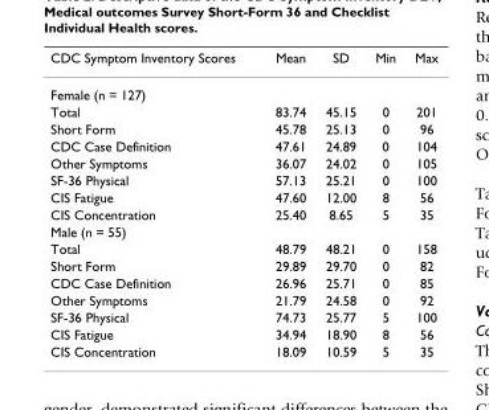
<table><thead><tr><td>CDC Symptom Inventory Scores</td><td>Mean</td><td>SD</td><td>Min</td><td>Max</td></tr></thead><tbody><tr><td colspan="5">Female (n = 127)</td></tr><tr><td>Total</td><td>83.74</td><td>45.15</td><td>0</td><td>201</td></tr><tr><td>Short Form</td><td>45.78</td><td>25.13</td><td>0</td><td>96</td></tr><tr><td>CDC Case Definition</td><td>47.61</td><td>24.89</td><td>0</td><td>104</td></tr><tr><td>Other Symptoms</td><td>36.07</td><td>24.02</td><td>0</td><td>105</td></tr><tr><td>SF-36 Physical</td><td>57.13</td><td>25.21</td><td>0</td><td>100</td></tr><tr><td>CIS Fatigue</td><td>47.60</td><td>12.00</td><td>8</td><td>56</td></tr><tr><td>CIS Concentration</td><td>25.40</td><td>8.65</td><td>5</td><td>35</td></tr><tr><td colspan="5">Male (n = 55)</td></tr><tr><td>Total</td><td>48.79</td><td>48.21</td><td>0</td><td>158</td></tr><tr><td>Short Form</td><td>29.89</td><td>29.70</td><td>0</td><td>82</td></tr><tr><td>CDC Case Definition</td><td>26.96</td><td>25.71</td><td>0</td><td>85</td></tr><tr><td>Other Symptoms</td><td>21.79</td><td>24.58</td><td>0</td><td>92</td></tr><tr><td>SF-36 Physical</td><td>74.73</td><td>25.77</td><td>5</td><td>100</td></tr><tr><td>CIS Fatigue</td><td>34.94</td><td>18.90</td><td>8</td><td>56</td></tr><tr><td>CIS Concentration</td><td>18.09</td><td>10.59</td><td>5</td><td>35</td></tr></tbody></table>